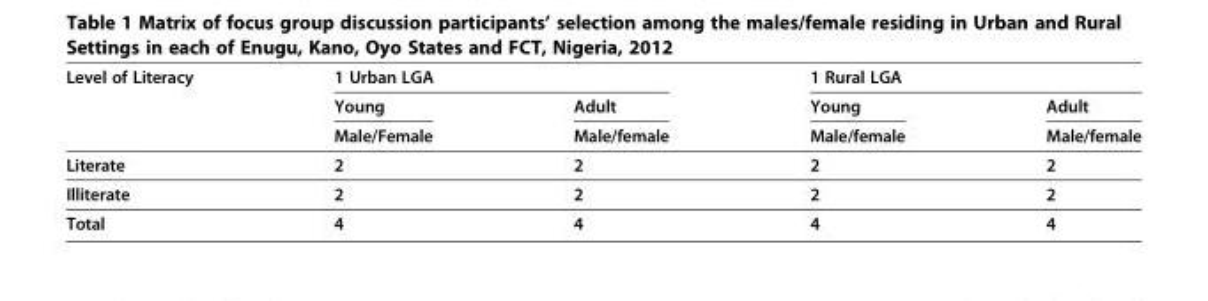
<table><thead><tr><td rowspan="3">Level of Literacy</td><td colspan="2">1 Urban LGA</td><td colspan="2">1 Rural LGA</td></tr><tr><td rowspan="2">Young Male/Female</td><td rowspan="2">Adult Male/female</td><td rowspan="2">Young Male/female</td><td rowspan="2">Adult Male/female</td></tr><tr></tr></thead><tbody><tr><td>Literate</td><td>2</td><td>2</td><td>2</td><td>2</td></tr><tr><td>Illiterate</td><td>2</td><td>2</td><td>2</td><td>2</td></tr><tr><td>Total</td><td>4</td><td>4</td><td>4</td><td>4</td></tr></tbody></table>